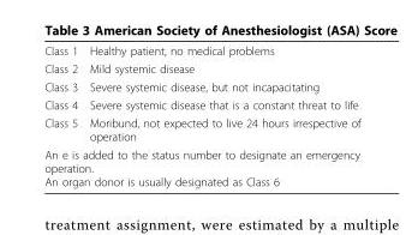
<table><tbody><tr><td>Class 1</td><td>Healthy patient, no medical problems</td></tr><tr><td>Class 2</td><td>Mild systemic disease</td></tr><tr><td>Class 3</td><td>Severe systemic disease, but not incapacitating</td></tr><tr><td>Class 4</td><td>Severe systemic disease that is a constant threat to life</td></tr><tr><td>Class 5</td><td>Moribund, not expected to live 24 hours irrespective of operation</td></tr><tr><td colspan="2">An e is added to the status number to designate an emergency operation. An organ donor is usually designated as Class 6</td></tr></tbody></table>